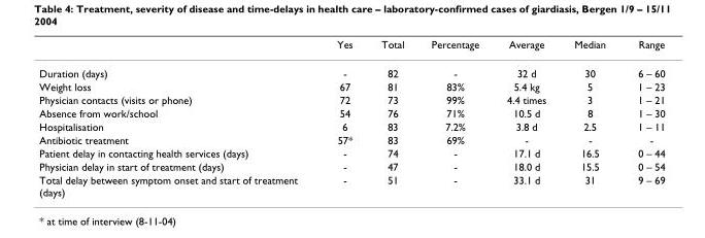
<table><thead><tr><td></td><td>Yes</td><td>Total</td><td>Percentage</td><td>Average</td><td>Median</td><td>Range</td></tr></thead><tbody><tr><td>Duration (days)</td><td>-</td><td>82</td><td>-</td><td>32 d</td><td>30</td><td>6 – 60</td></tr><tr><td>Weight loss</td><td>67</td><td>81</td><td>83%</td><td>5.4 kg</td><td>5</td><td>1 – 23</td></tr><tr><td>Physician contacts (visits or phone)</td><td>72</td><td>73</td><td>99%</td><td>4.4 times</td><td>3</td><td>1 – 21</td></tr><tr><td>Absence from work/school</td><td>54</td><td>76</td><td>71%</td><td>10.5 d</td><td>8</td><td>1 – 30</td></tr><tr><td>Hospitalisation</td><td>6</td><td>83</td><td>7.2%</td><td>3.8 d</td><td>2.5</td><td>1 – 11</td></tr><tr><td>Antibiotic treatment</td><td>57*</td><td>83</td><td>69%</td><td>-</td><td>-</td><td>-</td></tr><tr><td>Patient delay in contacting health services (days)</td><td>-</td><td>74</td><td>-</td><td>17.1 d</td><td>16.5</td><td>0 – 44</td></tr><tr><td>Physician delay in start of treatment (days)</td><td>-</td><td>47</td><td>-</td><td>18.0 d</td><td>15.5</td><td>0 – 54</td></tr><tr><td>Total delay between symptom onset and start of treatment (days)</td><td>-</td><td>51</td><td>-</td><td>33.1 d</td><td>31</td><td>9 – 69</td></tr></tbody></table>